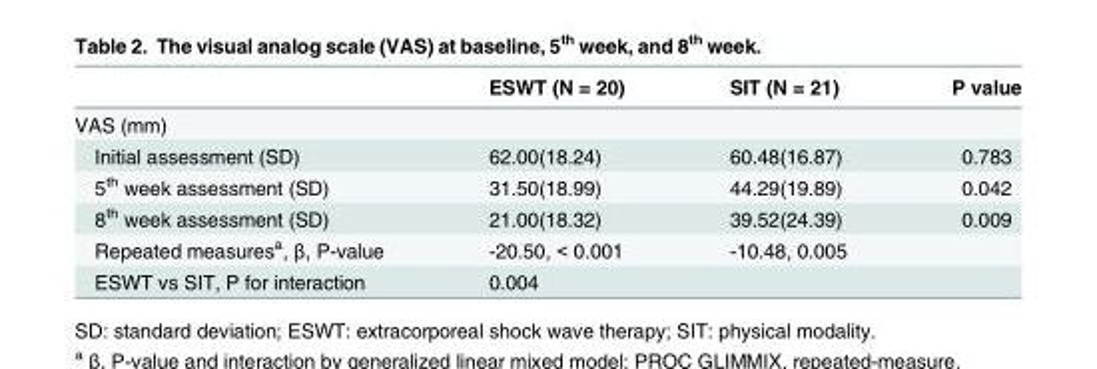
<table><thead><tr><td></td><td>ESWT (N = 20)</td><td>SIT (N = 21)</td><td>P value</td></tr></thead><tbody><tr><td colspan="4">VAS (mm)</td></tr><tr><td>Initial assessment (SD)</td><td>62.00(18.24)</td><td>60.48(16.87)</td><td>0.783</td></tr><tr><td>5<sup>th</sup> week assessment (SD)</td><td>31.50(18.99)</td><td>44.29(19.89)</td><td>0.042</td></tr><tr><td>8<sup>th</sup> week assessment (SD)</td><td>21.00(18.32)</td><td>39.52(24.39)</td><td>0.009</td></tr><tr><td>Repeated measures<sup>a</sup>, β, P-value</td><td>-20.50, &lt; 0.001</td><td>-10.48, 0.005</td><td></td></tr><tr><td>ESWT vs SIT, P for interaction</td><td>0.004</td><td></td><td></td></tr></tbody></table>